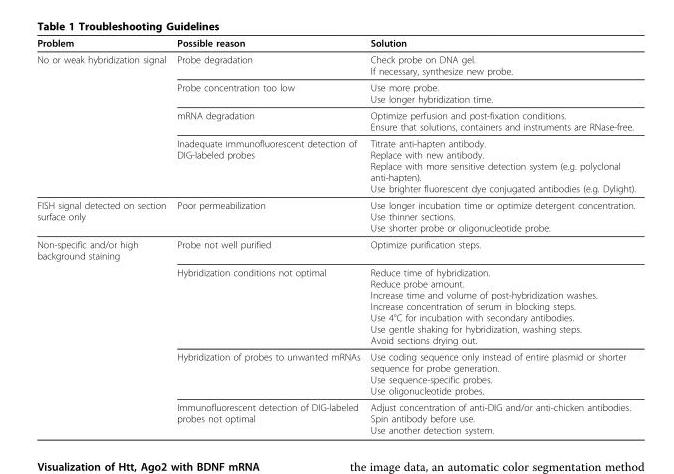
<table><thead><tr><td>Problem</td><td>Possible reason</td><td>Solution</td></tr></thead><tbody><tr><td rowspan="4">No or weak hybridization signal</td><td>Probe degradation</td><td>Check probe on DNA gel. If necessary, synthesize new probe.</td></tr><tr><td>Probe concentration too low</td><td>Use more probe. Use longer hybridization time.</td></tr><tr><td>mRNA degradation</td><td>Optimize perfusion and post-fixation conditions. Ensure that solutions, containers and instruments are RNase-free.</td></tr><tr><td>Inadequate immunofluorescent detection of DIG-labeled probes</td><td>Titrate anti-hapten antibody. Replace with new antibody. Replace with more sensitive detection system (e.g. polyclonal anti-hapten). Use brighter fluorescent dye conjugated antibodies (e.g. Dylight).</td></tr><tr><td>FISH signal detected on section surface only</td><td>Poor permeabilization</td><td>Use longer incubation time or optimize detergent concentration. Use thinner sections. Use shorter probe or oligonucleotide probe.</td></tr><tr><td rowspan="4">Non-specific and/or high background staining</td><td>Probe not well purified</td><td>Optimize purification steps.</td></tr><tr><td>Hybridization conditions not optimal</td><td>Reduce time of hybridization. Reduce probe amount. Increase time and volume of post-hybridization washes. Increase concentration of serum in blocking steps. Use 4°C for incubation with secondary antibodies. Use gentle shaking for hybridization, washing steps. Avoid sections drying out.</td></tr><tr><td>Hybridization of probes to unwanted mRNAs</td><td>Use coding sequence only instead of entire plasmid or shorter sequence for probe generation. Use sequence-specific probes. Use oligonucleotide probes.</td></tr><tr><td>Immunofluorescent detection of DIG-labeled probes not optimal</td><td>Adjust concentration of anti-DIG and/or anti-chicken antibodies. Spin antibody before use. Use another detection system.</td></tr></tbody></table>